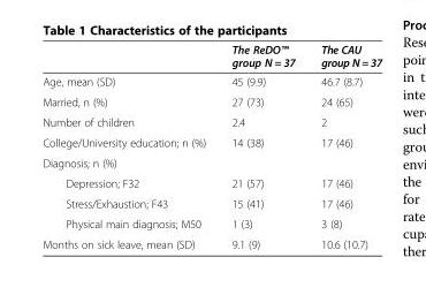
<table><thead><tr><td></td><td>The ReDO™ group N = 37</td><td>The CAU group N = 37</td></tr></thead><tbody><tr><td>Age, mean (SD)</td><td>45 (9.9)</td><td>46.7 (8.7)</td></tr><tr><td>Married, n (%)</td><td>27 (73)</td><td>24 (65)</td></tr><tr><td>Number of children</td><td>2.4</td><td>2</td></tr><tr><td>College/University education; n (%)</td><td>14 (38)</td><td>17 (46)</td></tr><tr><td colspan="3">Diagnosis; n (%)</td></tr><tr><td>Depression; F32</td><td>21 (57)</td><td>17 (46)</td></tr><tr><td>Stress/Exhaustion; F43</td><td>15 (41)</td><td>17 (46)</td></tr><tr><td>Physical main diagnosis; M50</td><td>1 (3)</td><td>3 (8)</td></tr><tr><td>Months on sick leave, mean (SD)</td><td>9.1 (9)</td><td>10.6 (10.7)</td></tr></tbody></table>